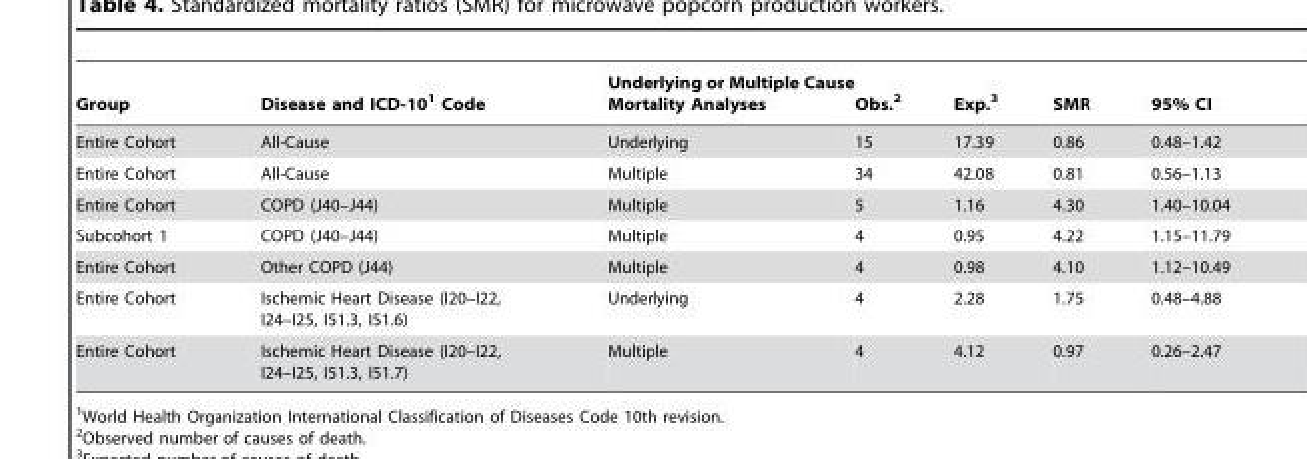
<table><thead><tr><td>Group</td><td>Disease and ICD-10<sup>1</sup> Code</td><td>Underlying or Multiple Cause Mortality Analyses</td><td>Obs.<sup>2</sup></td><td>Exp.<sup>3</sup></td><td>SMR</td><td>95% CI</td></tr></thead><tbody><tr><td>Entire Cohort</td><td>All-Cause</td><td>Underlying</td><td>15</td><td>17.39</td><td>0.86</td><td>0.48–1.42</td></tr><tr><td>Entire Cohort</td><td>All-Cause</td><td>Multiple</td><td>34</td><td>42.08</td><td>0.81</td><td>0.56–1.13</td></tr><tr><td>Entire Cohort</td><td>COPD (J40–J44)</td><td>Multiple</td><td>5</td><td>1.16</td><td>4.30</td><td>1.40–10.04</td></tr><tr><td>Subcohort 1</td><td>COPD (J40–J44)</td><td>Multiple</td><td>4</td><td>0.95</td><td>4.22</td><td>1.15–11.79</td></tr><tr><td>Entire Cohort</td><td>Other COPD (J44)</td><td>Multiple</td><td>4</td><td>0.98</td><td>4.10</td><td>1.12–10.49</td></tr><tr><td>Entire Cohort</td><td>Ischemic Heart Disease (I20–I22, I24–I25, I51.3, I51.6)</td><td>Underlying</td><td>4</td><td>2.28</td><td>1.75</td><td>0.48–4.88</td></tr><tr><td>Entire Cohort</td><td>Ischemic Heart Disease (I20–I22, I24–I25, I51.3, I51.7)</td><td>Multiple</td><td>4</td><td>4.12</td><td>0.97</td><td>0.26–2.47</td></tr></tbody></table>